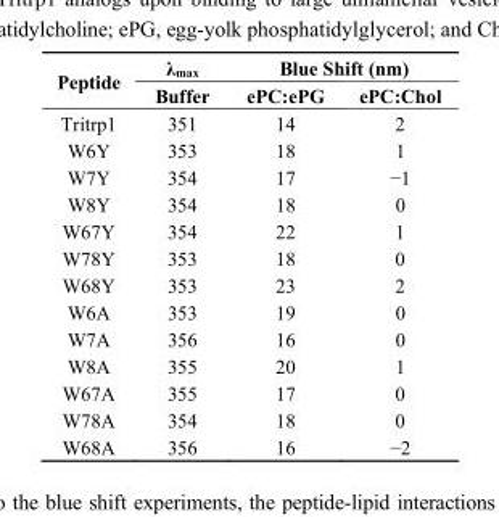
<table><thead><tr><td rowspan="2">Peptide</td><td rowspan="2">λ<sub>max</sub> Buffer</td><td colspan="2">Blue Shift (nm)</td></tr><tr><td>ePC:ePG</td><td>ePC:Chol</td></tr></thead><tbody><tr><td>Tritrp1</td><td>351</td><td>14</td><td>2</td></tr><tr><td>W6Y</td><td>353</td><td>18</td><td>1</td></tr><tr><td>W7Y</td><td>354</td><td>17</td><td>−1</td></tr><tr><td>W8Y</td><td>354</td><td>18</td><td>0</td></tr><tr><td>W67Y</td><td>354</td><td>22</td><td>1</td></tr><tr><td>W78Y</td><td>353</td><td>18</td><td>0</td></tr><tr><td>W68Y</td><td>353</td><td>23</td><td>2</td></tr><tr><td>W6A</td><td>353</td><td>19</td><td>0</td></tr><tr><td>W7A</td><td>356</td><td>16</td><td>0</td></tr><tr><td>W8A</td><td>355</td><td>20</td><td>1</td></tr><tr><td>W67A</td><td>355</td><td>17</td><td>0</td></tr><tr><td>W78A</td><td>354</td><td>18</td><td>0</td></tr><tr><td>W68A</td><td>356</td><td>16</td><td>−2</td></tr></tbody></table>